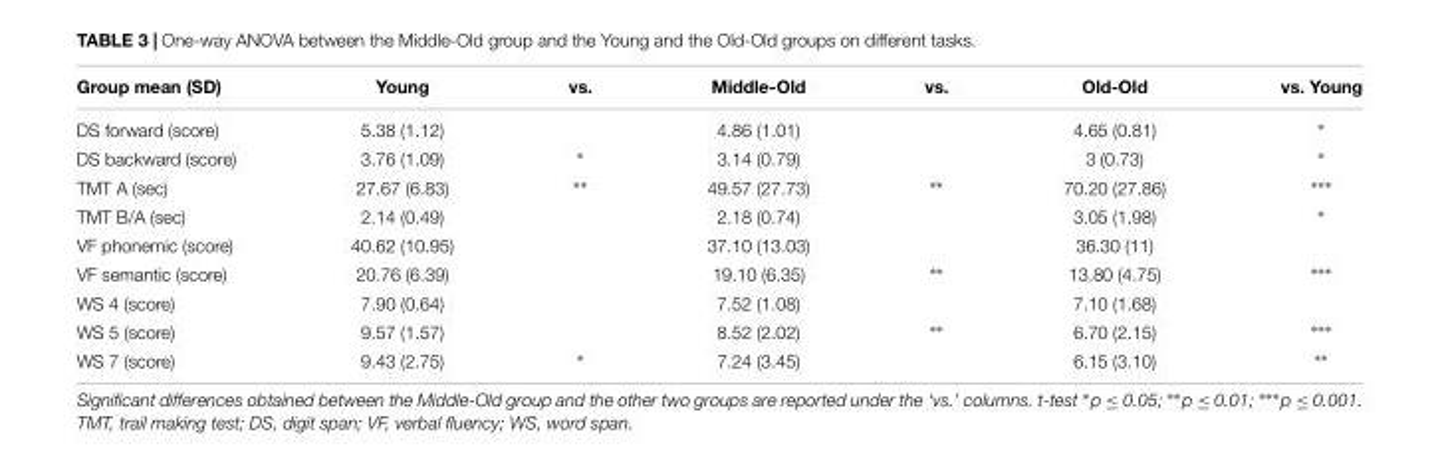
<table><thead><tr><td>Group mean (SD)</td><td>Young</td><td>vs.</td><td>Middle-Old</td><td>vs.</td><td>Old-Old</td><td>vs. Young</td></tr></thead><tbody><tr><td>DS forward (score)</td><td>5.38 (1.12)</td><td></td><td>4.86 (1.01)</td><td></td><td>4.65 (0.81)</td><td>∗</td></tr><tr><td>DS backward (score)</td><td>3.76 (1.09)</td><td>∗</td><td>3.14 (0.79)</td><td></td><td>3 (0.73)</td><td>∗</td></tr><tr><td>TMT A (sec)</td><td>27.67 (6.83)</td><td>∗∗</td><td>49.57 (27.73)</td><td>∗∗</td><td>70.20 (27.86)</td><td>∗∗∗</td></tr><tr><td>TMT B/A (sec)</td><td>2.14 (0.49)</td><td></td><td>2.18 (0.74)</td><td></td><td>3.05 (1.98)</td><td>∗</td></tr><tr><td>VF phonemic (score)</td><td>40.62 (10.95)</td><td></td><td>37.10 (13.03)</td><td></td><td>36.30 (11)</td><td></td></tr><tr><td>VF semantic (score)</td><td>20.76 (6.39)</td><td></td><td>19.10 (6.35)</td><td>∗∗</td><td>13.80 (4.75)</td><td>∗∗∗</td></tr><tr><td>WS 4 (score)</td><td>7.90 (0.64)</td><td></td><td>7.52 (1.08)</td><td></td><td>7.10 (1.68)</td><td></td></tr><tr><td>WS 5 (score)</td><td>9.57 (1.57)</td><td></td><td>8.52 (2.02)</td><td>∗∗</td><td>6.70 (2.15)</td><td>∗∗∗</td></tr><tr><td>WS 7 (score)</td><td>9.43 (2.75)</td><td>∗</td><td>7.24 (3.45)</td><td></td><td>6.15 (3.10)</td><td>∗∗</td></tr></tbody></table>